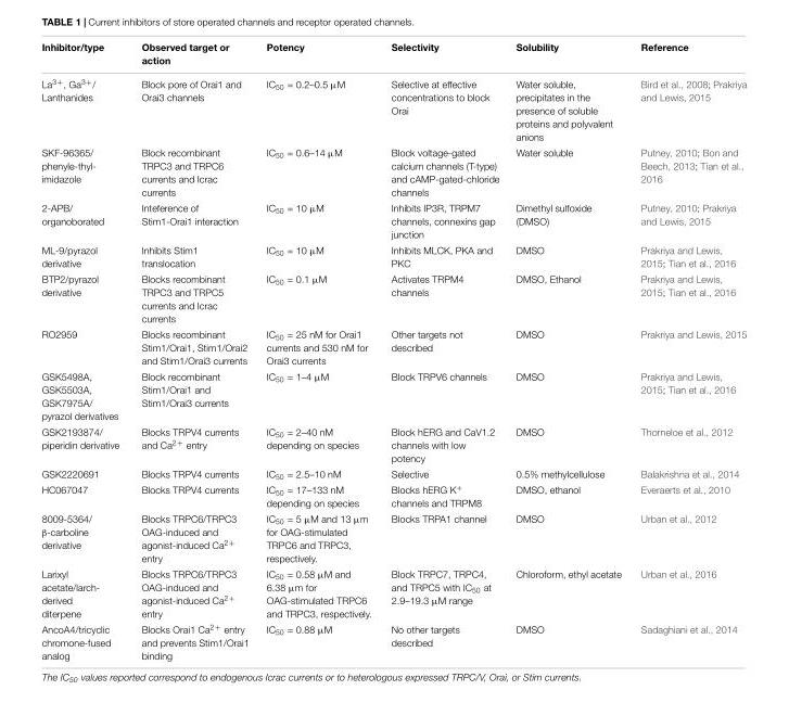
<table><thead><tr><td>Inhibitor/type</td><td>Observed target or action</td><td>Potency</td><td>Selectivity</td><td>Solubility</td><td>Reference</td></tr></thead><tbody><tr><td>La<sup>3+</sup>, Ga<sup>3+</sup>/ Lanthanides</td><td>Block pore of Orai1 and Orai3 channels</td><td>IC<sub>50</sub> = 0.2–0.5 µM</td><td>Selective at effective concentrations to block Orai</td><td>Water soluble, precipitates in the presence of soluble proteins and polyvalent anions</td><td>Bird et al., 2008; Prakriya and Lewis, 2015</td></tr><tr><td>SKF-96365/ phenyle-thyl- imidazole</td><td>Block recombinant TRPC3 and TRPC6 currents and Icrac currents</td><td>IC<sub>50</sub> = 0.6–14 µM</td><td>Block voltage-gated calcium channels (T-type) and cAMP-gated-chloride channels</td><td>Water soluble</td><td>Putney, 2010; Bon and Beech, 2013; Tian et al., 2016</td></tr><tr><td>2-APB/ organoborated</td><td>Inteference of Stim1-Orai1 interaction</td><td>IC<sub>50</sub> = 10 µM</td><td>Inhibits IP3R, TRPM7 channels, connexins gap junction</td><td>Dimethyl sulfoxide (DMSO)</td><td>Putney, 2010; Prakriya and Lewis, 2015</td></tr><tr><td>ML-9/pyrazol derivative</td><td>Inhibits Stim1 translocation</td><td>IC<sub>50</sub> = 10 µM</td><td>Inhibits MLCK, PKA and PKC</td><td>DMSO</td><td>Prakriya and Lewis, 2015; Tian et al., 2016</td></tr><tr><td>BTP2/pyrazol derivative</td><td>Blocks recombinant TRPC3 and TRPC5 currents and Icrac currents</td><td>IC<sub>50</sub> = 0.1 µM</td><td>Activates TRPM4 channels</td><td>DMSO, Ethanol</td><td>Prakriya and Lewis, 2015; Tian et al., 2016</td></tr><tr><td>RO2959</td><td>Blocks recombinant Stim1/Orai1, Stim1/Orai2 and Stim1/Orai3 currents</td><td>IC<sub>50</sub> = 25 nM for Orai1 currents and 530 nM for Orai3 currents</td><td>Other targets not described</td><td>DMSO</td><td>Prakriya and Lewis, 2015</td></tr><tr><td>GSK5498A, GSK5503A, GSK7975A/ pyrazol derivatives</td><td>Block recombinant Stim1/Orai1 and Stim1/Orai3 currents</td><td>IC<sub>50</sub> = 1–4 µM</td><td>Block TRPV6 channels</td><td>DMSO</td><td>Prakriya and Lewis, 2015; Tian et al., 2016</td></tr><tr><td>GSK2193874/ piperidin derivative</td><td>Blocks TRPV4 currents and Ca<sup>2+</sup> entry</td><td>IC<sub>50</sub> = 2–40 nM depending on species</td><td>Block hERG and CaV1.2 channels with low potency</td><td>DMSO</td><td>Thorneloe et al., 2012</td></tr><tr><td>GSK2220691</td><td>Blocks TRPV4 currents</td><td>IC<sub>50</sub> = 2.5–10 nM</td><td>Selective</td><td>0.5% methylcellulose</td><td>Balakrishna et al., 2014</td></tr><tr><td>HC067047</td><td>Blocks TRPV4 currents</td><td>IC<sub>50</sub> = 17–133 nM depending on species</td><td>Blocks hERG K<sup>+</sup> channels and TRPM8</td><td>DMSO, ethanol</td><td>Everaerts et al., 2010</td></tr><tr><td>8009-5364/ β-carboline derivative</td><td>Blocks TRPC6/TRPC3 OAG-induced and agonist-induced Ca<sup>2+</sup> entry</td><td>IC<sub>50</sub> = 5 µM and 13 µm for OAG-stimulated TRPC6 and TRPC3, respectively.</td><td>Blocks TRPA1 channel</td><td>DMSO</td><td>Urban et al., 2012</td></tr><tr><td>Larixyl acetate/larch- derived diterpene</td><td>Blocks TRPC6/TRPC3 OAG-induced and agonist-induced Ca<sup>2+</sup> entry</td><td>IC<sub>50</sub> = 0.58 µM and 6.38 µm for OAG-stimulated TRPC6 and TRPC3, respectively.</td><td>Block TRPC7, TRPC4, and TRPC5 with IC<sub>50</sub> at 2.9–19.3 µM range</td><td>Chloroform, ethyl acetate</td><td>Urban et al., 2016</td></tr><tr><td>AncoA4/tricyclic chromone-fused analog</td><td>Blocks Orai1 Ca<sup>2+</sup> entry and prevents Stim1/Orai1 binding</td><td>IC<sub>50</sub> = 0.88 µM</td><td>No other targets described</td><td>DMSO</td><td>Sadaghiani et al., 2014</td></tr></tbody></table>